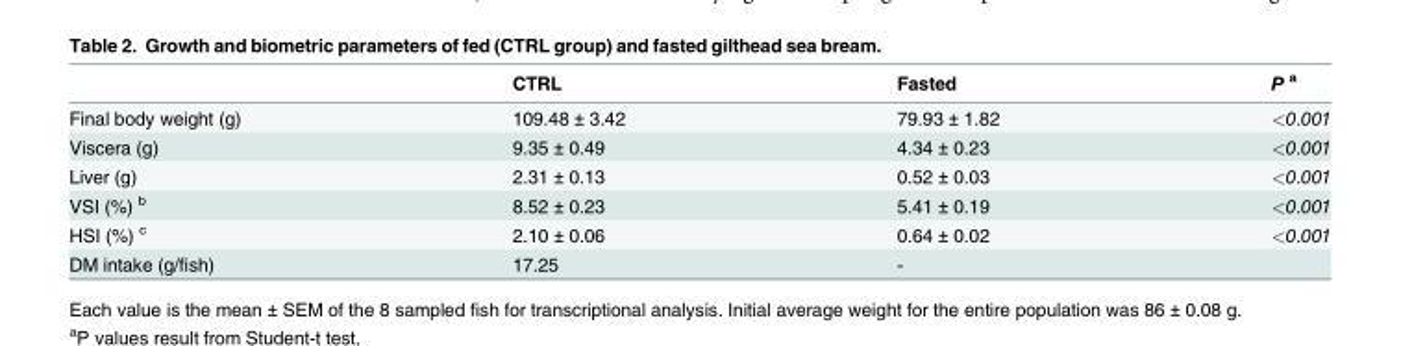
<table><thead><tr><td></td><td>CTRL</td><td>Fasted</td><td>P <sup>a</sup></td></tr></thead><tbody><tr><td>Final body weight (g)</td><td>109.48 ± 3.42</td><td>79.93 ± 1.82</td><td>&lt;0.001</td></tr><tr><td>Viscera (g)</td><td>9.35 ± 0.49</td><td>4.34 ± 0.23</td><td>&lt;0.001</td></tr><tr><td>Liver (g)</td><td>2.31 ± 0.13</td><td>0.52 ± 0.03</td><td>&lt;0.001</td></tr><tr><td>VSI (%) <sup>b</sup></td><td>8.52 ± 0.23</td><td>5.41 ± 0.19</td><td>&lt;0.001</td></tr><tr><td>HSI (%) <sup>c</sup></td><td>2.10 ± 0.06</td><td>0.64 ± 0.02</td><td>&lt;0.001</td></tr><tr><td>DM intake (g/fish)</td><td>17.25</td><td>-</td><td></td></tr></tbody></table>